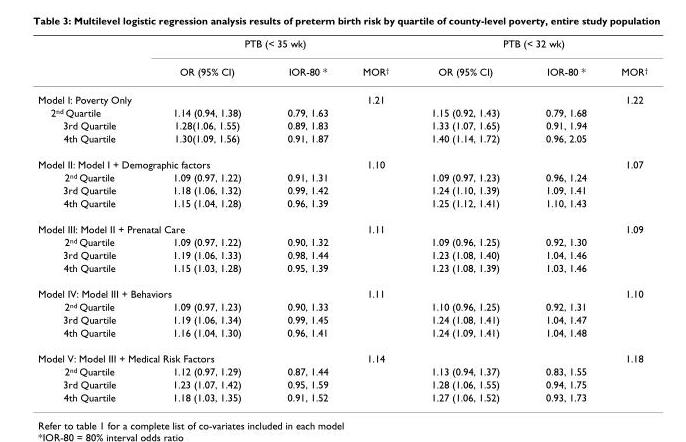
<table><thead><tr><td rowspan="2"></td><td colspan="3">PTB (&lt; 35 wk)</td><td colspan="3">PTB (&lt; 32 wk)</td></tr><tr><td>OR (95% CI)</td><td>IOR-80 *</td><td>MOR<sup>†</sup></td><td>OR (95% CI)</td><td>IOR-80 *</td><td>MOR<sup>†</sup></td></tr></thead><tbody><tr><td colspan="3">Model I: Poverty Only</td><td>1.21</td><td></td><td></td><td>1.22</td></tr><tr><td>2<sup>nd</sup> Quartile</td><td>1.14 (0.94, 1.38)</td><td>0.79, 1.63</td><td></td><td>1.15 (0.92, 1.43)</td><td>0.79, 1.68</td><td></td></tr><tr><td>3rd Quartile</td><td>1.28(1.06, 1.55)</td><td>0.89, 1.83</td><td></td><td>1.33 (1.07, 1.65)</td><td>0.91, 1.94</td><td></td></tr><tr><td>4th Quartile</td><td>1.30(1.09, 1.56)</td><td>0.91, 1.87</td><td></td><td>1.40 (1.14, 1.72)</td><td>0.96, 2.05</td><td></td></tr><tr><td colspan="3">Model II: Model I + Demographic factors</td><td>1.10</td><td></td><td></td><td>1.07</td></tr><tr><td>2<sup>nd</sup> Quartile</td><td>1.09 (0.97, 1.22)</td><td>0.91, 1.31</td><td></td><td>1.09 (0.97, 1.23)</td><td>0.96, 1.24</td><td></td></tr><tr><td>3rd Quartile</td><td>1.18 (1.06, 1.32)</td><td>0.99, 1.42</td><td></td><td>1.24 (1.10, 1.39)</td><td>1.09, 1.41</td><td></td></tr><tr><td>4th Quartile</td><td>1.15 (1.04, 1.28)</td><td>0.96, 1.39</td><td></td><td>1.25 (1.12, 1.41)</td><td>1.10, 1.43</td><td></td></tr><tr><td colspan="3">Model III: Model II + Prenatal Care</td><td>1.11</td><td></td><td></td><td>1.09</td></tr><tr><td>2<sup>nd</sup> Quartile</td><td>1.09 (0.97, 1.22)</td><td>0.90, 1.32</td><td></td><td>1.09 (0.96, 1.25)</td><td>0.92, 1.30</td><td></td></tr><tr><td>3rd Quartile</td><td>1.19 (1.06, 1.33)</td><td>0.98, 1.44</td><td></td><td>1.23 (1.08, 1.40)</td><td>1.04, 1.46</td><td></td></tr><tr><td>4th Quartile</td><td>1.15 (1.03, 1.28)</td><td>0.95, 1.39</td><td></td><td>1.23 (1.08, 1.39)</td><td>1.03, 1.46</td><td></td></tr><tr><td colspan="3">Model IV: Model III + Behaviors</td><td>1.11</td><td></td><td></td><td>1.10</td></tr><tr><td>2<sup>nd</sup> Quartile</td><td>1.09 (0.97, 1.23)</td><td>0.90, 1.33</td><td></td><td>1.10 (0.96, 1.25)</td><td>0.92, 1.31</td><td></td></tr><tr><td>3rd Quartile</td><td>1.19 (1.06, 1.34)</td><td>0.99, 1.45</td><td></td><td>1.24 (1.08, 1.41)</td><td>1.04, 1.47</td><td></td></tr><tr><td>4th Quartile</td><td>1.16 (1.04, 1.30)</td><td>0.96, 1.41</td><td></td><td>1.24 (1.09, 1.41)</td><td>1.04, 1.48</td><td></td></tr><tr><td colspan="3">Model V: Model III + Medical Risk Factors</td><td>1.14</td><td></td><td></td><td>1.18</td></tr><tr><td>2<sup>nd</sup> Quartile</td><td>1.12 (0.97, 1.29)</td><td>0.87, 1.44</td><td></td><td>1.13 (0.94, 1.37)</td><td>0.83, 1.55</td><td></td></tr><tr><td>3rd Quartile</td><td>1.23 (1.07, 1.42)</td><td>0.95, 1.59</td><td></td><td>1.28 (1.06, 1.55)</td><td>0.94, 1.75</td><td></td></tr><tr><td>4th Quartile</td><td>1.18 (1.03, 1.35)</td><td>0.91, 1.52</td><td></td><td>1.27 (1.06, 1.52)</td><td>0.93, 1.73</td><td></td></tr></tbody></table>